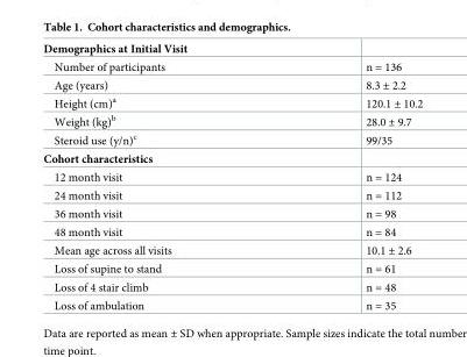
<table><tbody><tr><td colspan="2">Demographics at Initial Visit</td></tr><tr><td>Number of participants</td><td>n = 136</td></tr><tr><td>Age (years)</td><td>8.3 ± 2.2</td></tr><tr><td>Height (cm)<sup>a</sup></td><td>120.1 ± 10.2</td></tr><tr><td>Weight (kg)<sup>b</sup></td><td>28.0 ± 9.7</td></tr><tr><td>Steroid use (y/n)<sup>c</sup></td><td>99/35</td></tr><tr><td colspan="2">Cohort characteristics</td></tr><tr><td>12 month visit</td><td>n = 124</td></tr><tr><td>24 month visit</td><td>n = 112</td></tr><tr><td>36 month visit</td><td>n = 98</td></tr><tr><td>48 month visit</td><td>n = 84</td></tr><tr><td>Mean age across all visits</td><td>10.1 ± 2.6</td></tr><tr><td>Loss of supine to stand</td><td>n = 61</td></tr><tr><td>Loss of 4 stair climb</td><td>n = 48</td></tr><tr><td>Loss of ambulation</td><td>n = 35</td></tr></tbody></table>